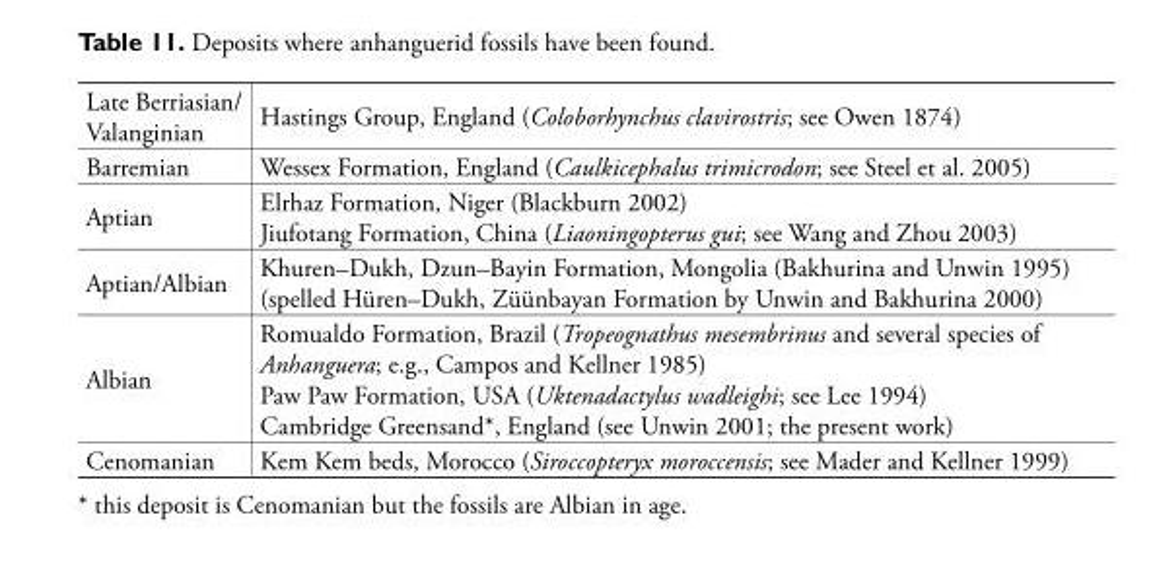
<table><tbody><tr><td>Late Berriasian/ Valanginian</td><td>Hastings Group, England (Coloborhynchus clavirostris; see Owen 1874)</td></tr><tr><td>Barremian</td><td>Wessex Formation, England (Caulkicephalus trimicrodon; see Steel et al. 2005)</td></tr><tr><td>Aptian</td><td>Elrhaz Formation, Niger (Blackburn 2002) Jiufotang Formation, China (Liaoningopterus gui; see Wang and Zhou 2003)</td></tr><tr><td>Aptian/Albian</td><td>Khuren–Dukh, Dzun–Bayin Formation, Mongolia (Bakhurina and Unwin 1995) (spelled Hüren–Dukh, Züünbayan Formation by Unwin and Bakhurina 2000)</td></tr><tr><td>Albian</td><td>Romualdo Formation, Brazil (Tropeognathus mesembrinus and several species of Anhanguera; e.g., Campos and Kellner 1985) Paw Paw Formation, USA (Uktenadactylus wadleighi; see Lee 1994) Cambridge Greensand*, England (see Unwin 2001; the present work)</td></tr><tr><td>Cenomanian</td><td>Kem Kem beds, Morocco (Siroccopteryx moroccensis; see Mader and Kellner 1999)</td></tr></tbody></table>